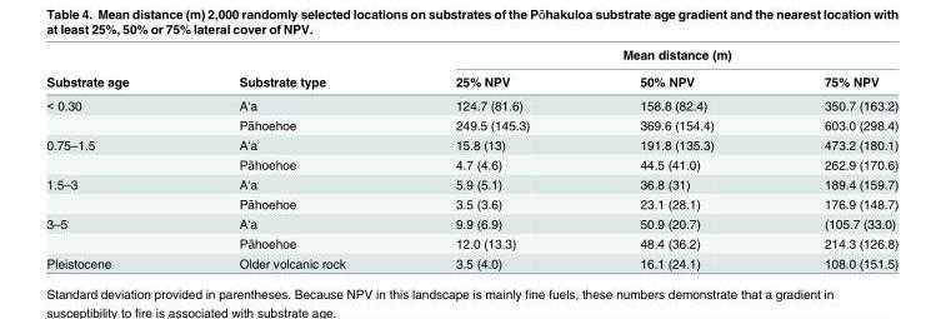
<table><thead><tr><td rowspan="2">Substrate age</td><td rowspan="2">Substrate type</td><td colspan="3">Mean distance (m)</td></tr><tr><td>25% NPV</td><td>50% NPV</td><td>75% NPV</td></tr></thead><tbody><tr><td rowspan="2">&lt; 0.30</td><td>Aʻa</td><td>124.7 (81.6)</td><td>158.8 (82.4)</td><td>350.7 (163.2)</td></tr><tr><td>Pāhoehoe</td><td>249.5 (145.3)</td><td>369.6 (154.4)</td><td>603.0 (298.4)</td></tr><tr><td rowspan="2">0.75–1.5</td><td>Aʻa</td><td>15.8 (13)</td><td>191.8 (135.3)</td><td>473.2 (180.1)</td></tr><tr><td>Pāhoehoe</td><td>4.7 (4.6)</td><td>44.5 (41.0)</td><td>262.9 (170.6)</td></tr><tr><td rowspan="2">1.5–3</td><td>Aʻa</td><td>5.9 (5.1)</td><td>36.8 (31)</td><td>189.4 (159.7)</td></tr><tr><td>Pāhoehoe</td><td>3.5 (3.6)</td><td>23.1 (28.1)</td><td>176.9 (148.7)</td></tr><tr><td rowspan="2">3–5</td><td>Aʻa</td><td>9.9 (6.9)</td><td>50.9 (20.7)</td><td>(105.7 (33.0)</td></tr><tr><td>Pāhoehoe</td><td>12.0 (13.3)</td><td>48.4 (36.2)</td><td>214.3 (126.8)</td></tr><tr><td>Pleistocene</td><td>Older volcanic rock</td><td>3.5 (4.0)</td><td>16.1 (24.1)</td><td>108.0 (151.5)</td></tr></tbody></table>